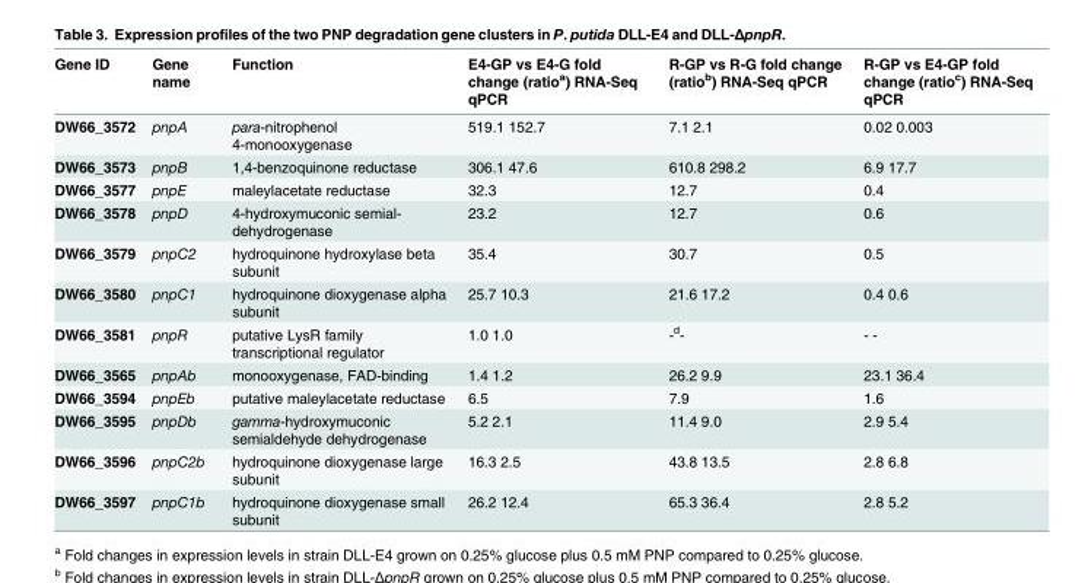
<table><thead><tr><td>Gene ID</td><td>Gene name</td><td>Function</td><td>E4-GP vs E4-G fold change (ratio<sup>a</sup>) RNA-Seq qPCR</td><td>R-GP vs R-G fold change (ratio<sup>b</sup>) RNA-Seq qPCR</td><td>R-GP vs E4-GP fold change (ratio<sup>c</sup>) RNA-Seq qPCR</td></tr></thead><tbody><tr><td>DW66_3572</td><td>pnpA</td><td>para-nitrophenol 4-monooxygenase</td><td>519.1 152.7</td><td>7.1 2.1</td><td>0.02 0.003</td></tr><tr><td>DW66_3573</td><td>pnpB</td><td>1,4-benzoquinone reductase</td><td>306.1 47.6</td><td>610.8 298.2</td><td>6.9 17.7</td></tr><tr><td>DW66_3577</td><td>pnpE</td><td>maleylacetate reductase</td><td>32.3</td><td>12.7</td><td>0.4</td></tr><tr><td>DW66_3578</td><td>pnpD</td><td>4-hydroxymuconic semial- dehydrogenase</td><td>23.2</td><td>12.7</td><td>0.6</td></tr><tr><td>DW66_3579</td><td>pnpC2</td><td>hydroquinone hydroxylase beta subunit</td><td>35.4</td><td>30.7</td><td>0.5</td></tr><tr><td>DW66_3580</td><td>pnpC1</td><td>hydroquinone dioxygenase alpha subunit</td><td>25.7 10.3</td><td>21.6 17.2</td><td>0.4 0.6</td></tr><tr><td>DW66_3581</td><td>pnpR</td><td>putative LysR family transcriptional regulator</td><td>1.0 1.0</td><td>-<sup>d</sup>-</td><td>- -</td></tr><tr><td>DW66_3565</td><td>pnpAb</td><td>monooxygenase, FAD-binding</td><td>1.4 1.2</td><td>26.2 9.9</td><td>23.1 36.4</td></tr><tr><td>DW66_3594</td><td>pnpEb</td><td>putative maleylacetate reductase</td><td>6.5</td><td>7.9</td><td>1.6</td></tr><tr><td>DW66_3595</td><td>pnpDb</td><td>gamma-hydroxymuconic semialdehyde dehydrogenase</td><td>5.2 2.1</td><td>11.4 9.0</td><td>2.9 5.4</td></tr><tr><td>DW66_3596</td><td>pnpC2b</td><td>hydroquinone dioxygenase large subunit</td><td>16.3 2.5</td><td>43.8 13.5</td><td>2.8 6.8</td></tr><tr><td>DW66_3597</td><td>pnpC1b</td><td>hydroquinone dioxygenase small subunit</td><td>26.2 12.4</td><td>65.3 36.4</td><td>2.8 5.2</td></tr></tbody></table>